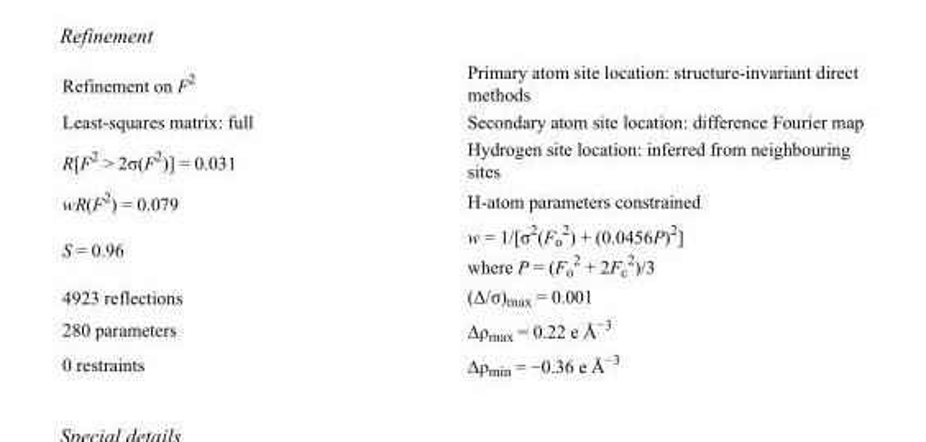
<table><tbody><tr><td>Refinement on F<sup>2</sup></td><td>Primary atom site location: structure-invariant direct methods</td></tr><tr><td>Least-squares matrix: full</td><td>Secondary atom site location: difference Fourier map</td></tr><tr><td>R[F<sup>2</sup> &gt; 2σ(F<sup>2</sup>)] = 0.031</td><td>Hydrogen site location: inferred from neighbouring sites</td></tr><tr><td>wR(F<sup>2</sup>) = 0.079</td><td>H-atom parameters constrained</td></tr><tr><td>S = 0.96</td><td>w = 1/[σ<sup>2</sup>(F<sub>o</sub> <sup>2</sup>) + (0.0456P)<sup>2</sup>] where P = (F<sub>o</sub> <sup>2</sup> + 2F<sub>c</sub> <sup>2</sup>)/3</td></tr><tr><td>4923 reflections</td><td>(Δ/σ)<sub>max</sub> = 0.001</td></tr><tr><td>280 parameters</td><td>Δρ<sub>max</sub> = 0.22 e Å<sup>−3</sup></td></tr><tr><td>0 restraints</td><td>Δρ<sub>min</sub> = −0.36 e Å<sup>−3</sup></td></tr></tbody></table>